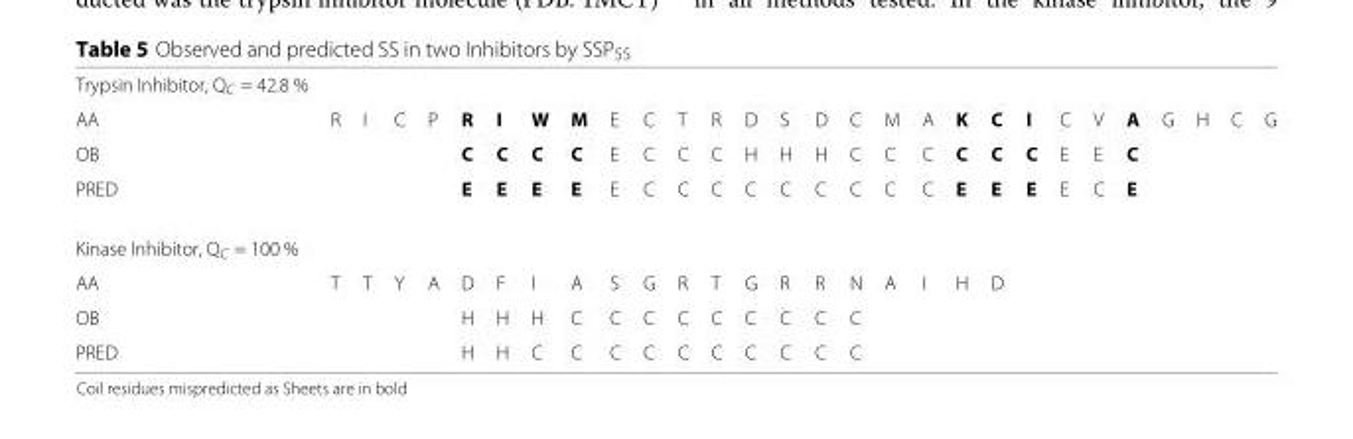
<table><tbody><tr><td colspan="29">Trypsin Inhibitor, Q<sub>C</sub> = 42.8 %</td></tr><tr><td>AA</td><td>R</td><td>I</td><td>C</td><td>P</td><td>R</td><td>I</td><td>W</td><td>M</td><td>E</td><td>C</td><td>T</td><td>R</td><td>D</td><td>S</td><td>D</td><td>C</td><td>M</td><td>A</td><td>K</td><td>C</td><td>I</td><td>C</td><td>V</td><td>A</td><td>G</td><td>H</td><td>C</td><td>G</td></tr><tr><td>OB</td><td></td><td></td><td></td><td></td><td>C</td><td>C</td><td>C</td><td>C</td><td>E</td><td>C</td><td>C</td><td>C</td><td>H</td><td>H</td><td>H</td><td>C</td><td>C</td><td>C</td><td>C</td><td>C</td><td>C</td><td>E</td><td>E</td><td>C</td><td></td><td></td><td></td><td></td></tr><tr><td>PRED</td><td></td><td></td><td></td><td></td><td>E</td><td>E</td><td>E</td><td>E</td><td>E</td><td>C</td><td>C</td><td>C</td><td>C</td><td>C</td><td>C</td><td>C</td><td>C</td><td>C</td><td>E</td><td>E</td><td>E</td><td>E</td><td>C</td><td>E</td><td></td><td></td><td></td><td></td></tr><tr><td colspan="29">Kinase Inhibitor, Q<sub>C</sub> = 100 %</td></tr><tr><td>AA</td><td>T</td><td>T</td><td>Y</td><td>A</td><td>D</td><td>F</td><td>I</td><td>A</td><td>S</td><td>G</td><td>R</td><td>T</td><td>G</td><td>R</td><td>R</td><td>N</td><td>A</td><td>I</td><td>H</td><td>D</td><td></td><td></td><td></td><td></td><td></td><td></td><td></td><td></td></tr><tr><td>OB</td><td></td><td></td><td></td><td></td><td>H</td><td>H</td><td>H</td><td>C</td><td>C</td><td>C</td><td>C</td><td>C</td><td>C</td><td>C</td><td>C</td><td>C</td><td></td><td></td><td></td><td></td><td></td><td></td><td></td><td></td><td></td><td></td><td></td><td></td></tr><tr><td>PRED</td><td></td><td></td><td></td><td></td><td>H</td><td>H</td><td>C</td><td>C</td><td>C</td><td>C</td><td>C</td><td>C</td><td>C</td><td>C</td><td>C</td><td>C</td><td></td><td></td><td></td><td></td><td></td><td></td><td></td><td></td><td></td><td></td><td></td><td></td></tr></tbody></table>